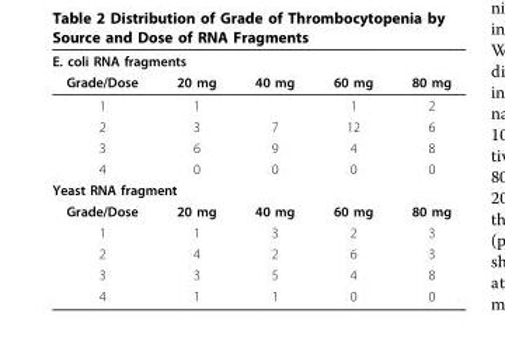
<table><thead><tr><td colspan="5">E. coli RNA fragments</td></tr><tr><td>Grade/Dose</td><td>20 mg</td><td>40 mg</td><td>60 mg</td><td>80 mg</td></tr></thead><tbody><tr><td>1</td><td>1</td><td></td><td>1</td><td>2</td></tr><tr><td>2</td><td>3</td><td>7</td><td>12</td><td>6</td></tr><tr><td>3</td><td>6</td><td>9</td><td>4</td><td>8</td></tr><tr><td>4</td><td>0</td><td>0</td><td>0</td><td>0</td></tr><tr><td colspan="5">Yeast RNA fragment</td></tr><tr><td>Grade/Dose</td><td>20 mg</td><td>40 mg</td><td>60 mg</td><td>80 mg</td></tr><tr><td>1</td><td>1</td><td>3</td><td>2</td><td>3</td></tr><tr><td>2</td><td>4</td><td>2</td><td>6</td><td>3</td></tr><tr><td>3</td><td>3</td><td>5</td><td>4</td><td>8</td></tr><tr><td>4</td><td>1</td><td>1</td><td>0</td><td>0</td></tr></tbody></table>